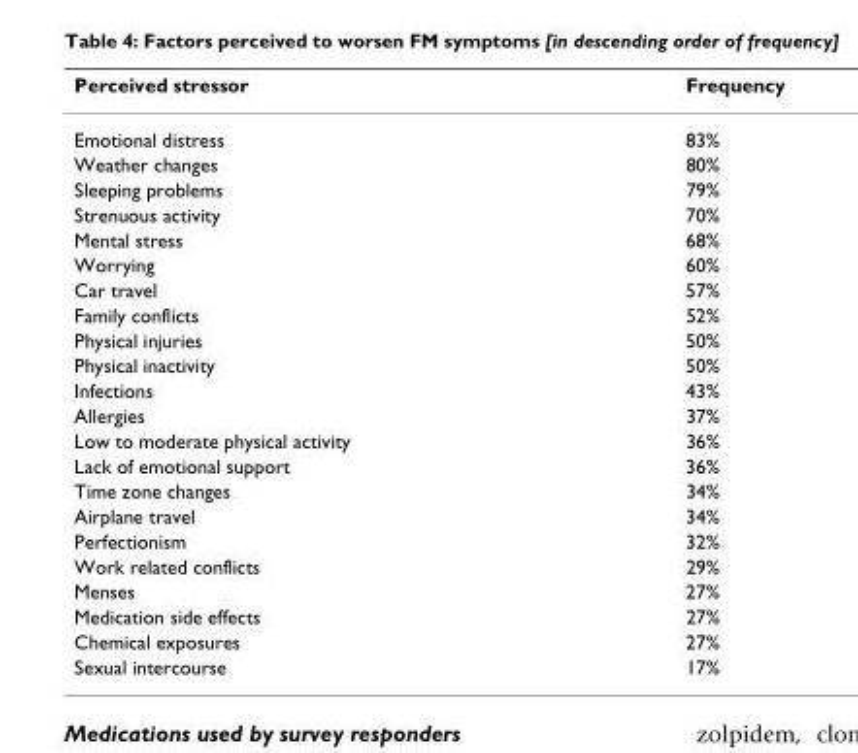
<table><thead><tr><td>Perceived stressor</td><td>Frequency</td></tr></thead><tbody><tr><td>Emotional distress</td><td>83%</td></tr><tr><td>Weather changes</td><td>80%</td></tr><tr><td>Sleeping problems</td><td>79%</td></tr><tr><td>Strenuous activity</td><td>70%</td></tr><tr><td>Mental stress</td><td>68%</td></tr><tr><td>Worrying</td><td>60%</td></tr><tr><td>Car travel</td><td>57%</td></tr><tr><td>Family conflicts</td><td>52%</td></tr><tr><td>Physical injuries</td><td>50%</td></tr><tr><td>Physical inactivity</td><td>50%</td></tr><tr><td>Infections</td><td>43%</td></tr><tr><td>Allergies</td><td>37%</td></tr><tr><td>Low to moderate physical activity</td><td>36%</td></tr><tr><td>Lack of emotional support</td><td>36%</td></tr><tr><td>Time zone changes</td><td>34%</td></tr><tr><td>Airplane travel</td><td>34%</td></tr><tr><td>Perfectionism</td><td>32%</td></tr><tr><td>Work related conflicts</td><td>29%</td></tr><tr><td>Menses</td><td>27%</td></tr><tr><td>Medication side effects</td><td>27%</td></tr><tr><td>Chemical exposures</td><td>27%</td></tr><tr><td>Sexual intercourse</td><td>17%</td></tr></tbody></table>